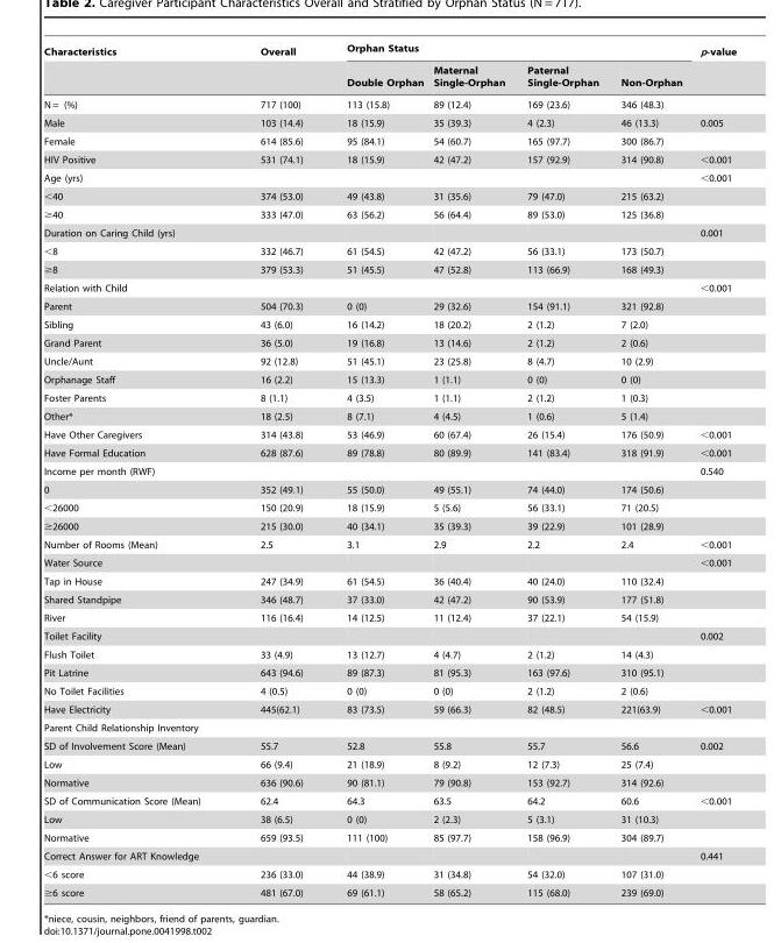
<table><thead><tr><td rowspan="2">Characteristics</td><td rowspan="2">Overall</td><td colspan="4">Orphan Status</td><td rowspan="2">p-value</td></tr><tr><td>Double Orphan</td><td>Maternal Single-Orphan</td><td>Paternal Single-Orphan</td><td>Non-Orphan</td></tr></thead><tbody><tr><td>N = (%)</td><td>717 (100)</td><td>113 (15.8)</td><td>89 (12.4)</td><td>169 (23.6)</td><td>346 (48.3)</td><td></td></tr><tr><td>Male</td><td>103 (14.4)</td><td>18 (15.9)</td><td>35 (39.3)</td><td>4 (2.3)</td><td>46 (13.3)</td><td>0.005</td></tr><tr><td>Female</td><td>614 (85.6)</td><td>95 (84.1)</td><td>54 (60.7)</td><td>165 (97.7)</td><td>300 (86.7)</td><td></td></tr><tr><td>HIV Positive</td><td>531 (74.1)</td><td>18 (15.9)</td><td>42 (47.2)</td><td>157 (92.9)</td><td>314 (90.8)</td><td>&lt;0.001</td></tr><tr><td>Age (yrs)</td><td></td><td></td><td></td><td></td><td></td><td>&lt;0.001</td></tr><tr><td>&lt;40</td><td>374 (53.0)</td><td>49 (43.8)</td><td>31 (35.6)</td><td>79 (47.0)</td><td>215 (63.2)</td><td></td></tr><tr><td>≥40</td><td>333 (47.0)</td><td>63 (56.2)</td><td>56 (64.4)</td><td>89 (53.0)</td><td>125 (36.8)</td><td></td></tr><tr><td>Duration on Caring Child (yrs)</td><td></td><td></td><td></td><td></td><td></td><td>0.001</td></tr><tr><td>&lt;8</td><td>332 (46.7)</td><td>61 (54.5)</td><td>42 (47.2)</td><td>56 (33.1)</td><td>173 (50.7)</td><td></td></tr><tr><td>≥8</td><td>379 (53.3)</td><td>51 (45.5)</td><td>47 (52.8)</td><td>113 (66.9)</td><td>168 (49.3)</td><td></td></tr><tr><td>Relation with Child</td><td></td><td></td><td></td><td></td><td></td><td>&lt;0.001</td></tr><tr><td>Parent</td><td>504 (70.3)</td><td>0 (0)</td><td>29 (32.6)</td><td>154 (91.1)</td><td>321 (92.8)</td><td></td></tr><tr><td>Sibling</td><td>43 (6.0)</td><td>16 (14.2)</td><td>18 (20.2)</td><td>2 (1.2)</td><td>7 (2.0)</td><td></td></tr><tr><td>Grand Parent</td><td>36 (5.0)</td><td>19 (16.8)</td><td>13 (14.6)</td><td>2 (1.2)</td><td>2 (0.6)</td><td></td></tr><tr><td>Uncle/Aunt</td><td>92 (12.8)</td><td>51 (45.1)</td><td>23 (25.8)</td><td>8 (4.7)</td><td>10 (2.9)</td><td></td></tr><tr><td>Orphanage Staff</td><td>16 (2.2)</td><td>15 (13.3)</td><td>1 (1.1)</td><td>0 (0)</td><td>0 (0)</td><td></td></tr><tr><td>Foster Parents</td><td>8 (1.1)</td><td>4 (3.5)</td><td>1 (1.1)</td><td>2 (1.2)</td><td>1 (0.3)</td><td></td></tr><tr><td>Other*</td><td>18 (2.5)</td><td>8 (7.1)</td><td>4 (4.5)</td><td>1 (0.6)</td><td>5 (1.4)</td><td></td></tr><tr><td>Have Other Caregivers</td><td>314 (43.8)</td><td>53 (46.9)</td><td>60 (67.4)</td><td>26 (15.4)</td><td>176 (50.9)</td><td>&lt;0.001</td></tr><tr><td>Have Formal Education</td><td>628 (87.6)</td><td>89 (78.8)</td><td>80 (89.9)</td><td>141 (83.4)</td><td>318 (91.9)</td><td>&lt;0.001</td></tr><tr><td>Income per month (RWF)</td><td></td><td></td><td></td><td></td><td></td><td>0.540</td></tr><tr><td>0</td><td>352 (49.1)</td><td>55 (50.0)</td><td>49 (55.1)</td><td>74 (44.0)</td><td>174 (50.6)</td><td></td></tr><tr><td>&lt;26000</td><td>150 (20.9)</td><td>18 (15.9)</td><td>5 (5.6)</td><td>56 (33.1)</td><td>71 (20.5)</td><td></td></tr><tr><td>≥26000</td><td>215 (30.0)</td><td>40 (34.1)</td><td>35 (39.3)</td><td>39 (22.9)</td><td>101 (28.9)</td><td></td></tr><tr><td>Number of Rooms (Mean)</td><td>2.5</td><td>3.1</td><td>2.9</td><td>2.2</td><td>2.4</td><td>&lt;0.001</td></tr><tr><td>Water Source</td><td></td><td></td><td></td><td></td><td></td><td>&lt;0.001</td></tr><tr><td>Tap in House</td><td>247 (34.9)</td><td>61 (54.5)</td><td>36 (40.4)</td><td>40 (24.0)</td><td>110 (32.4)</td><td></td></tr><tr><td>Shared Standpipe</td><td>346 (48.7)</td><td>37 (33.0)</td><td>42 (47.2)</td><td>90 (53.9)</td><td>177 (51.8)</td><td></td></tr><tr><td>River</td><td>116 (16.4)</td><td>14 (12.5)</td><td>11 (12.4)</td><td>37 (22.1)</td><td>54 (15.9)</td><td></td></tr><tr><td>Toilet Facility</td><td></td><td></td><td></td><td></td><td></td><td>0.002</td></tr><tr><td>Flush Toilet</td><td>33 (4.9)</td><td>13 (12.7)</td><td>4 (4.7)</td><td>2 (1.2)</td><td>14 (4.3)</td><td></td></tr><tr><td>Pit Latrine</td><td>643 (94.6)</td><td>89 (87.3)</td><td>81 (95.3)</td><td>163 (97.6)</td><td>310 (95.1)</td><td></td></tr><tr><td>No Toilet Facilities</td><td>4 (0.5)</td><td>0 (0)</td><td>0 (0)</td><td>2 (1.2)</td><td>2 (0.6)</td><td></td></tr><tr><td>Have Electricity</td><td>445(62.1)</td><td>83 (73.5)</td><td>59 (66.3)</td><td>82 (48.5)</td><td>221(63.9)</td><td>&lt;0.001</td></tr><tr><td colspan="7">Parent Child Relationship Inventory</td></tr><tr><td>SD of Involvement Score (Mean)</td><td>55.7</td><td>52.8</td><td>55.8</td><td>55.7</td><td>56.6</td><td>0.002</td></tr><tr><td>Low</td><td>66 (9.4)</td><td>21 (18.9)</td><td>8 (9.2)</td><td>12 (7.3)</td><td>25 (7.4)</td><td></td></tr><tr><td>Normative</td><td>636 (90.6)</td><td>90 (81.1)</td><td>79 (90.8)</td><td>153 (92.7)</td><td>314 (92.6)</td><td></td></tr><tr><td>SD of Communication Score (Mean)</td><td>62.4</td><td>64.3</td><td>63.5</td><td>64.2</td><td>60.6</td><td>&lt;0.001</td></tr><tr><td>Low</td><td>38 (6.5)</td><td>0 (0)</td><td>2 (2.3)</td><td>5 (3.1)</td><td>31 (10.3)</td><td></td></tr><tr><td>Normative</td><td>659 (93.5)</td><td>111 (100)</td><td>85 (97.7)</td><td>158 (96.9)</td><td>304 (89.7)</td><td></td></tr><tr><td>Correct Answer for ART Knowledge</td><td></td><td></td><td></td><td></td><td></td><td>0.441</td></tr><tr><td>&lt;6 score</td><td>236 (33.0)</td><td>44 (38.9)</td><td>31 (34.8)</td><td>54 (32.0)</td><td>107 (31.0)</td><td></td></tr><tr><td>≥6 score</td><td>481 (67.0)</td><td>69 (61.1)</td><td>58 (65.2)</td><td>115 (68.0)</td><td>239 (69.0)</td><td></td></tr></tbody></table>